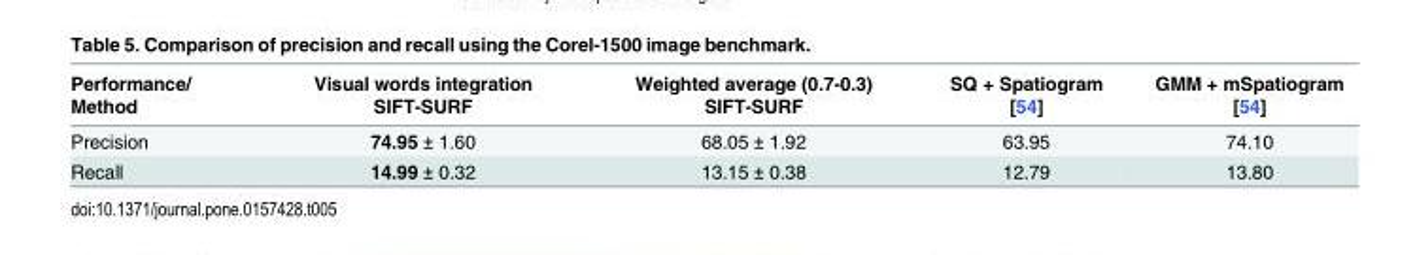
<table><thead><tr><td>Performance/ Method</td><td>Visual words integration SIFT-SURF</td><td>Weighted average (0.7-0.3) SIFT-SURF</td><td>SQ + Spatiogram [54]</td><td>GMM + mSpatiogram [54]</td></tr></thead><tbody><tr><td>Precision</td><td>74.95 ± 1.60</td><td>68.05 ± 1.92</td><td>63.95</td><td>74.10</td></tr><tr><td>Recall</td><td>14.99 ± 0.32</td><td>13.15 ± 0.38</td><td>12.79</td><td>13.80</td></tr></tbody></table>